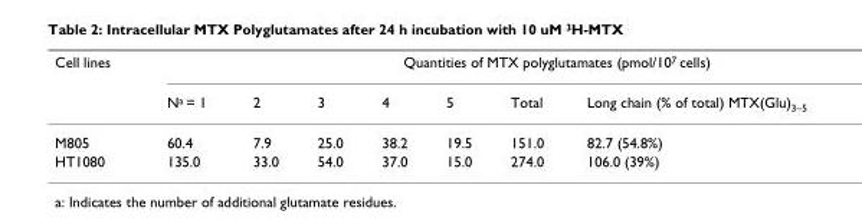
<table><thead><tr><td rowspan="2">Cell lines</td><td colspan="7">Quantities of MTX polyglutamates (pmol/10<sup>7</sup> cells)</td></tr><tr><td>N<sup>a</sup> = 1</td><td>2</td><td>3</td><td>4</td><td>5</td><td>Total</td><td>Long chain (% of total) MTX(Glu)<sub>3–5</sub></td></tr></thead><tbody><tr><td>M805</td><td>60.4</td><td>7.9</td><td>25.0</td><td>38.2</td><td>19.5</td><td>151.0</td><td>82.7 (54.8%)</td></tr><tr><td>HT1080</td><td>135.0</td><td>33.0</td><td>54.0</td><td>37.0</td><td>15.0</td><td>274.0</td><td>106.0 (39%)</td></tr></tbody></table>